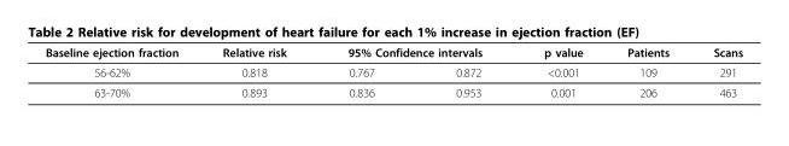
<table><thead><tr><td rowspan="2">Baseline ejection fraction 56-62%</td><td rowspan="2">Relative risk 0.818</td><td colspan="2">95% Confidence intervals</td><td rowspan="2">p value &lt;0.001</td><td rowspan="2">Patients 109</td><td rowspan="2">Scans 291</td></tr><tr><td>0.767</td><td>0.872</td></tr></thead><tbody><tr><td>63-70%</td><td>0.893</td><td>0.836</td><td>0.953</td><td>0.001</td><td>206</td><td>463</td></tr></tbody></table>